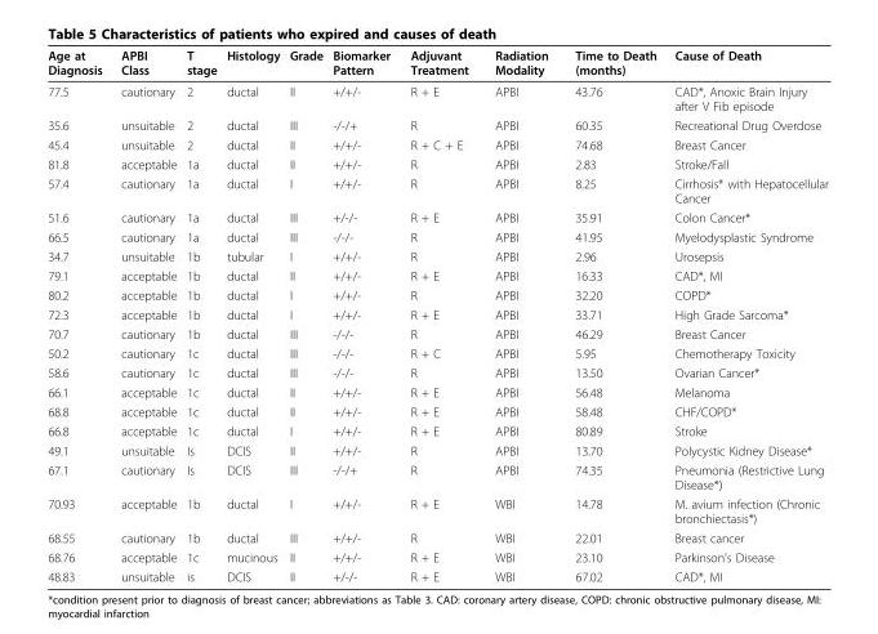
<table><thead><tr><td>Age at Diagnosis</td><td>APBI Class</td><td>T stage</td><td>Histology</td><td>Grade</td><td>Biomarker Pattern</td><td>Adjuvant Treatment</td><td>Radiation Modality</td><td>Time to Death (months)</td><td>Cause of Death</td></tr></thead><tbody><tr><td>77.5</td><td>cautionary</td><td>2</td><td>ductal</td><td>II</td><td>+/+/-</td><td>R + E</td><td>APBI</td><td>43.76</td><td>CAD*, Anoxic Brain Injury after V Fib episode</td></tr><tr><td>35.6</td><td>unsuitable</td><td>2</td><td>ductal</td><td>III</td><td>-/-/+</td><td>R</td><td>APBI</td><td>60.35</td><td>Recreational Drug Overdose</td></tr><tr><td>45.4</td><td>unsuitable</td><td>2</td><td>ductal</td><td>II</td><td>+/+/-</td><td>R + C + E</td><td>APBI</td><td>74.68</td><td>Breast Cancer</td></tr><tr><td>81.8</td><td>acceptable</td><td>1a</td><td>ductal</td><td>II</td><td>+/+/-</td><td>R</td><td>APBI</td><td>2.83</td><td>Stroke/Fall</td></tr><tr><td>57.4</td><td>cautionary</td><td>1a</td><td>ductal</td><td>I</td><td>+/+/-</td><td>R</td><td>APBI</td><td>8.25</td><td>Cirrhosis* with Hepatocellular Cancer</td></tr><tr><td>51.6</td><td>cautionary</td><td>1a</td><td>ductal</td><td>III</td><td>+/-/-</td><td>R + E</td><td>APBI</td><td>35.91</td><td>Colon Cancer*</td></tr><tr><td>66.5</td><td>cautionary</td><td>1a</td><td>ductal</td><td>III</td><td>-/-/-</td><td>R</td><td>APBI</td><td>41.95</td><td>Myelodysplastic Syndrome</td></tr><tr><td>34.7</td><td>unsuitable</td><td>1b</td><td>tubular</td><td>I</td><td>+/+/-</td><td>R</td><td>APBI</td><td>2.96</td><td>Urosepsis</td></tr><tr><td>79.1</td><td>acceptable</td><td>1b</td><td>ductal</td><td>II</td><td>+/+/-</td><td>R + E</td><td>APBI</td><td>16.33</td><td>CAD*, MI</td></tr><tr><td>80.2</td><td>acceptable</td><td>1b</td><td>ductal</td><td>I</td><td>+/+/-</td><td>R</td><td>APBI</td><td>32.20</td><td>COPD*</td></tr><tr><td>72.3</td><td>acceptable</td><td>1b</td><td>ductal</td><td>I</td><td>+/+/-</td><td>R + E</td><td>APBI</td><td>33.71</td><td>High Grade Sarcoma*</td></tr><tr><td>70.7</td><td>cautionary</td><td>1b</td><td>ductal</td><td>III</td><td>-/-/-</td><td>R</td><td>APBI</td><td>46.29</td><td>Breast Cancer</td></tr><tr><td>50.2</td><td>cautionary</td><td>1c</td><td>ductal</td><td>III</td><td>-/-/-</td><td>R + C</td><td>APBI</td><td>5.95</td><td>Chemotherapy Toxicity</td></tr><tr><td>58.6</td><td>cautionary</td><td>1c</td><td>ductal</td><td>III</td><td>-/-/-</td><td>R</td><td>APBI</td><td>13.50</td><td>Ovarian Cancer*</td></tr><tr><td>66.1</td><td>acceptable</td><td>1c</td><td>ductal</td><td>II</td><td>+/+/-</td><td>R + E</td><td>APBI</td><td>56.48</td><td>Melanoma</td></tr><tr><td>68.8</td><td>acceptable</td><td>1c</td><td>ductal</td><td>II</td><td>+/+/-</td><td>R + E</td><td>APBI</td><td>58.48</td><td>CHF/COPD*</td></tr><tr><td>66.8</td><td>acceptable</td><td>1c</td><td>ductal</td><td>I</td><td>+/+/-</td><td>R + E</td><td>APBI</td><td>80.89</td><td>Stroke</td></tr><tr><td>49.1</td><td>unsuitable</td><td>Is</td><td>DCIS</td><td>II</td><td>+/+/-</td><td>R</td><td>APBI</td><td>13.70</td><td>Polycystic Kidney Disease*</td></tr><tr><td>67.1</td><td>cautionary</td><td>Is</td><td>DCIS</td><td>III</td><td>-/-/+</td><td>R</td><td>APBI</td><td>74.35</td><td>Pneumonia (Restrictive Lung Disease*)</td></tr><tr><td>70.93</td><td>acceptable</td><td>1b</td><td>ductal</td><td>I</td><td>+/+/-</td><td>R + E</td><td>WBI</td><td>14.78</td><td>M. avium infection (Chronic bronchiectasis*)</td></tr><tr><td>68.55</td><td>cautionary</td><td>1b</td><td>ductal</td><td>III</td><td>+/+/-</td><td>R</td><td>WBI</td><td>22.01</td><td>Breast cancer</td></tr><tr><td>68.76</td><td>acceptable</td><td>1c</td><td>mucinous</td><td>II</td><td>+/+/-</td><td>R + E</td><td>WBI</td><td>23.10</td><td>Parkinson’s Disease</td></tr><tr><td>48.83</td><td>unsuitable</td><td>is</td><td>DCIS</td><td>II</td><td>+/-/-</td><td>R + E</td><td>WBI</td><td>67.02</td><td>CAD*, MI</td></tr></tbody></table>